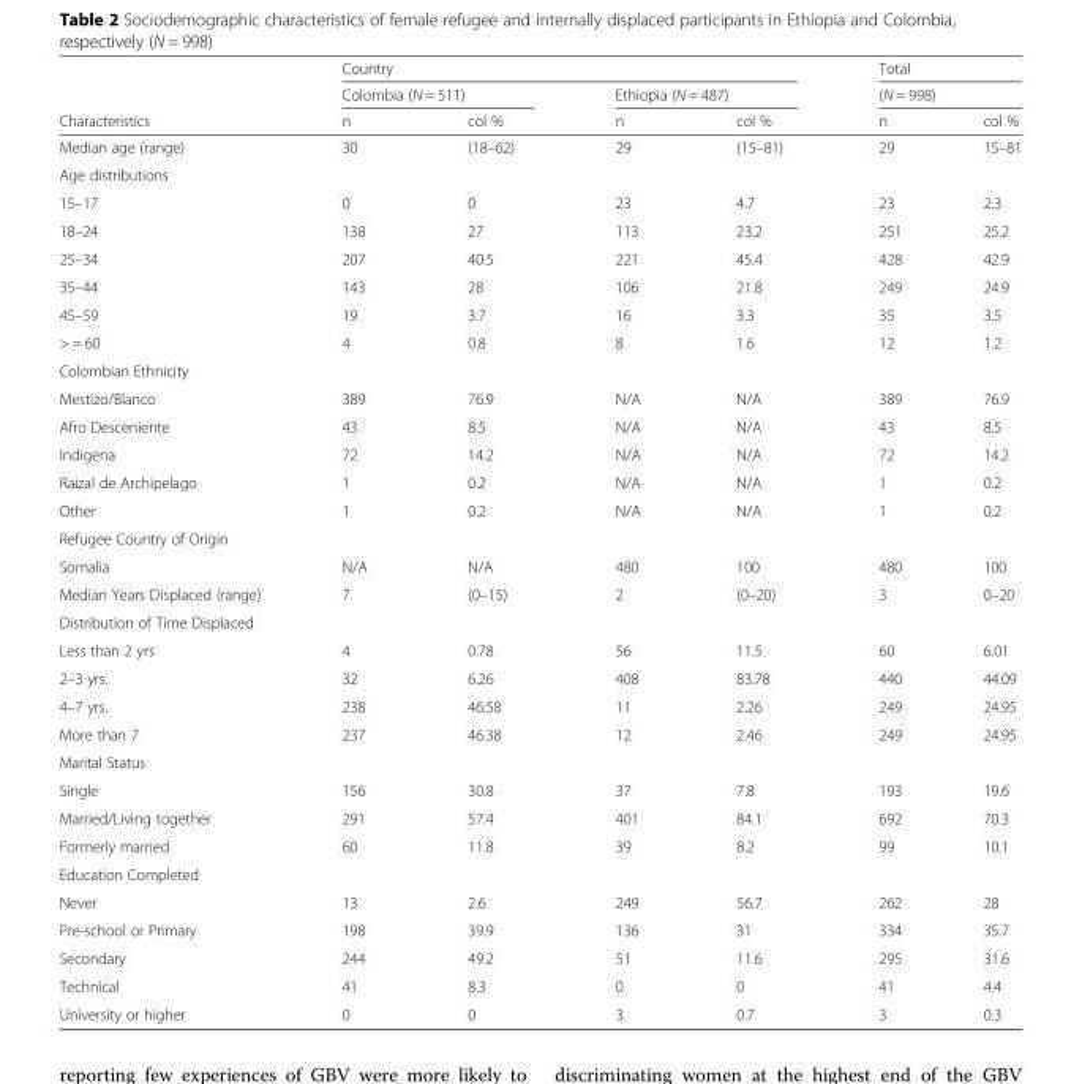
<table><thead><tr><td rowspan="3">Characteristics</td><td colspan="4">Country</td><td rowspan="2" colspan="2">Total (N = 998)</td></tr><tr><td colspan="2">Colombia (N = 511)</td><td colspan="2">Ethiopia (N = 487)</td></tr><tr><td>n</td><td>col %</td><td>n</td><td>col %</td><td>n</td><td>col %</td></tr></thead><tbody><tr><td>Median age (range)</td><td>30</td><td>(18–62)</td><td>29</td><td>(15–81)</td><td>29</td><td>15–81</td></tr><tr><td colspan="7">Age distributions</td></tr><tr><td>15–17</td><td>0</td><td>0</td><td>23</td><td>4.7</td><td>23</td><td>2.3</td></tr><tr><td>18–24</td><td>138</td><td>27</td><td>113</td><td>23.2</td><td>251</td><td>25.2</td></tr><tr><td>25–34</td><td>207</td><td>40.5</td><td>221</td><td>45.4</td><td>428</td><td>42.9</td></tr><tr><td>35–44</td><td>143</td><td>28</td><td>106</td><td>21.8</td><td>249</td><td>24.9</td></tr><tr><td>45–59</td><td>19</td><td>3.7</td><td>16</td><td>3.3</td><td>35</td><td>3.5</td></tr><tr><td>&gt; = 60</td><td>4</td><td>0.8</td><td>8</td><td>1.6</td><td>12</td><td>1.2</td></tr><tr><td colspan="7">Colombian Ethnicity</td></tr><tr><td>Mestizo/Blanco</td><td>389</td><td>76.9</td><td>N/A</td><td>N/A</td><td>389</td><td>76.9</td></tr><tr><td>Afro Desceniente</td><td>43</td><td>8.5</td><td>N/A</td><td>N/A</td><td>43</td><td>8.5</td></tr><tr><td>Indigena</td><td>72</td><td>14.2</td><td>N/A</td><td>N/A</td><td>72</td><td>14.2</td></tr><tr><td>Raizal de Archipelago</td><td>1</td><td>0.2</td><td>N/A</td><td>N/A</td><td>1</td><td>0.2</td></tr><tr><td>Other</td><td>1</td><td>0.2</td><td>N/A</td><td>N/A</td><td>1</td><td>0.2</td></tr><tr><td colspan="7">Refugee Country of Origin</td></tr><tr><td>Somalia</td><td>N/A</td><td>N/A</td><td>480</td><td>100</td><td>480</td><td>100</td></tr><tr><td>Median Years Displaced (range)</td><td>7</td><td>(0–15)</td><td>2</td><td>(0–20)</td><td>3</td><td>0–20</td></tr><tr><td colspan="7">Distribution of Time Displaced</td></tr><tr><td>Less than 2 yrs</td><td>4</td><td>0.78</td><td>56</td><td>11.5</td><td>60</td><td>6.01</td></tr><tr><td>2–3 yrs.</td><td>32</td><td>6.26</td><td>408</td><td>83.78</td><td>440</td><td>44.09</td></tr><tr><td>4–7 yrs.</td><td>238</td><td>46.58</td><td>11</td><td>2.26</td><td>249</td><td>24.95</td></tr><tr><td>More than 7</td><td>237</td><td>46.38</td><td>12</td><td>2.46</td><td>249</td><td>24.95</td></tr><tr><td colspan="7">Marital Status</td></tr><tr><td>Single</td><td>156</td><td>30.8</td><td>37</td><td>7.8</td><td>193</td><td>19.6</td></tr><tr><td>Married/Living together</td><td>291</td><td>57.4</td><td>401</td><td>84.1</td><td>692</td><td>70.3</td></tr><tr><td>Formerly married</td><td>60</td><td>11.8</td><td>39</td><td>8.2</td><td>99</td><td>10.1</td></tr><tr><td colspan="7">Education Completed</td></tr><tr><td>Never</td><td>13</td><td>2.6</td><td>249</td><td>56.7</td><td>262</td><td>28</td></tr><tr><td>Pre-school or Primary</td><td>198</td><td>39.9</td><td>136</td><td>31</td><td>334</td><td>35.7</td></tr><tr><td>Secondary</td><td>244</td><td>49.2</td><td>51</td><td>11.6</td><td>295</td><td>31.6</td></tr><tr><td>Technical</td><td>41</td><td>8.3</td><td>0</td><td>0</td><td>41</td><td>4.4</td></tr><tr><td>University or higher</td><td>0</td><td>0</td><td>3</td><td>0.7</td><td>3</td><td>0.3</td></tr></tbody></table>